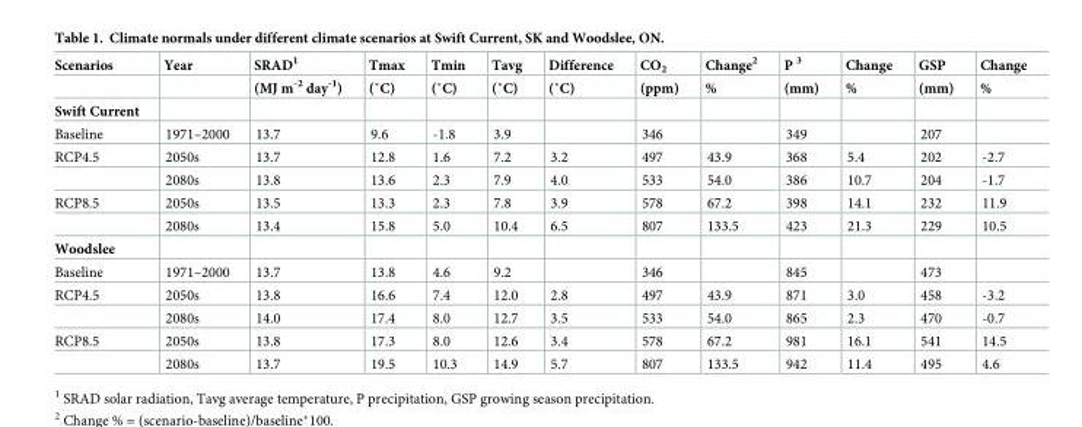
<table><thead><tr><td rowspan="2">Scenarios</td><td rowspan="2">Year</td><td rowspan="2">SRAD<sup>1</sup> (MJ m<sup>-2</sup> day<sup>-1</sup>)</td><td rowspan="2">Tmax (˚C)</td><td rowspan="2">Tmin (˚C)</td><td rowspan="2">Tavg (˚C)</td><td rowspan="2">Difference (˚C)</td><td rowspan="2">CO<sub>2</sub> (ppm)</td><td rowspan="2">Change<sup>2</sup> %</td><td rowspan="2">P <sup>3</sup> (mm)</td><td rowspan="2">Change %</td><td rowspan="2">GSP (mm)</td><td rowspan="2">Change %</td></tr><tr></tr></thead><tbody><tr><td colspan="13">Swift Current</td></tr><tr><td>Baseline</td><td>1971–2000</td><td>13.7</td><td>9.6</td><td>-1.8</td><td>3.9</td><td></td><td>346</td><td></td><td>349</td><td></td><td>207</td><td></td></tr><tr><td rowspan="2">RCP4.5</td><td>2050s</td><td>13.7</td><td>12.8</td><td>1.6</td><td>7.2</td><td>3.2</td><td>497</td><td>43.9</td><td>368</td><td>5.4</td><td>202</td><td>-2.7</td></tr><tr><td>2080s</td><td>13.8</td><td>13.6</td><td>2.3</td><td>7.9</td><td>4.0</td><td>533</td><td>54.0</td><td>386</td><td>10.7</td><td>204</td><td>-1.7</td></tr><tr><td rowspan="2">RCP8.5</td><td>2050s</td><td>13.5</td><td>13.3</td><td>2.3</td><td>7.8</td><td>3.9</td><td>578</td><td>67.2</td><td>398</td><td>14.1</td><td>232</td><td>11.9</td></tr><tr><td>2080s</td><td>13.4</td><td>15.8</td><td>5.0</td><td>10.4</td><td>6.5</td><td>807</td><td>133.5</td><td>423</td><td>21.3</td><td>229</td><td>10.5</td></tr><tr><td colspan="13">Woodslee</td></tr><tr><td>Baseline</td><td>1971–2000</td><td>13.7</td><td>13.8</td><td>4.6</td><td>9.2</td><td></td><td>346</td><td></td><td>845</td><td></td><td>473</td><td></td></tr><tr><td rowspan="2">RCP4.5</td><td>2050s</td><td>13.8</td><td>16.6</td><td>7.4</td><td>12.0</td><td>2.8</td><td>497</td><td>43.9</td><td>871</td><td>3.0</td><td>458</td><td>-3.2</td></tr><tr><td>2080s</td><td>14.0</td><td>17.4</td><td>8.0</td><td>12.7</td><td>3.5</td><td>533</td><td>54.0</td><td>865</td><td>2.3</td><td>470</td><td>-0.7</td></tr><tr><td rowspan="2">RCP8.5</td><td>2050s</td><td>13.8</td><td>17.3</td><td>8.0</td><td>12.6</td><td>3.4</td><td>578</td><td>67.2</td><td>981</td><td>16.1</td><td>541</td><td>14.5</td></tr><tr><td>2080s</td><td>13.7</td><td>19.5</td><td>10.3</td><td>14.9</td><td>5.7</td><td>807</td><td>133.5</td><td>942</td><td>11.4</td><td>495</td><td>4.6</td></tr></tbody></table>